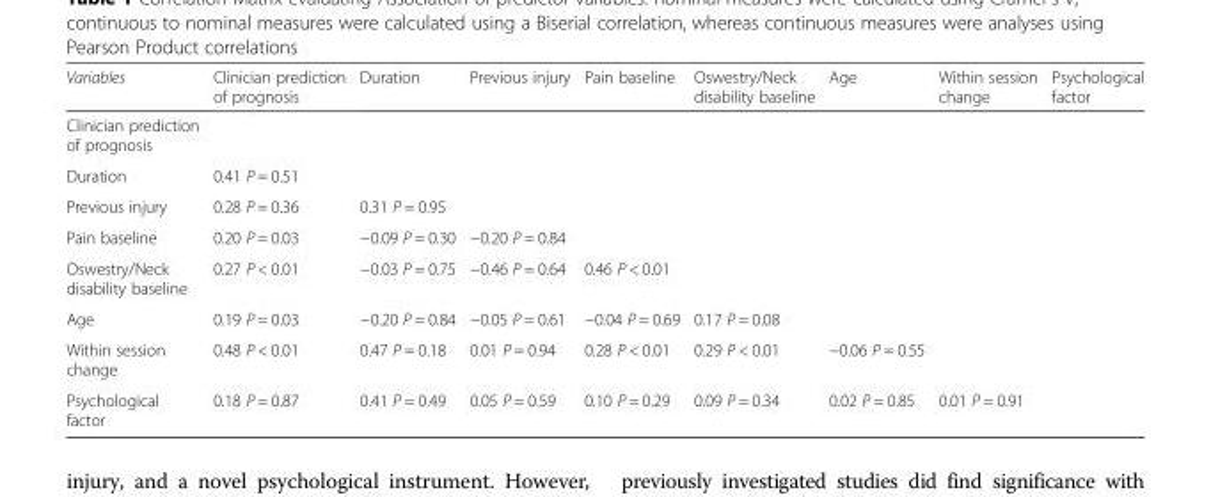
<table><thead><tr><td>Variables</td><td>Clinician prediction of prognosis</td><td>Duration</td><td>Previous injury</td><td>Pain baseline</td><td>Oswestry/Neck disability baseline</td><td>Age</td><td>Within session change</td><td>Psychological factor</td></tr></thead><tbody><tr><td colspan="9">Clinician prediction of prognosis</td></tr><tr><td>Duration</td><td>0.41 P = 0.51</td><td></td><td></td><td></td><td></td><td></td><td></td><td></td></tr><tr><td>Previous injury</td><td>0.28 P = 0.36</td><td>0.31 P = 0.95</td><td></td><td></td><td></td><td></td><td></td><td></td></tr><tr><td>Pain baseline</td><td>0.20 P = 0.03</td><td>−0.09 P = 0.30</td><td>−0.20 P = 0.84</td><td></td><td></td><td></td><td></td><td></td></tr><tr><td>Oswestry/Neck disability baseline</td><td>0.27 P &lt; 0.01</td><td>−0.03 P = 0.75</td><td>−0.46 P = 0.64</td><td>0.46 P &lt; 0.01</td><td></td><td></td><td></td><td></td></tr><tr><td>Age</td><td>0.19 P = 0.03</td><td>−0.20 P = 0.84</td><td>−0.05 P = 0.61</td><td>−0.04 P = 0.69</td><td>0.17 P = 0.08</td><td></td><td></td><td></td></tr><tr><td>Within session change</td><td>0.48 P &lt; 0.01</td><td>0.47 P = 0.18</td><td>0.01 P = 0.94</td><td>0.28 P &lt; 0.01</td><td>0.29 P &lt; 0.01</td><td>−0.06 P = 0.55</td><td></td><td></td></tr><tr><td>Psychological factor</td><td>0.18 P = 0.87</td><td>0.41 P = 0.49</td><td>0.05 P = 0.59</td><td>0.10 P = 0.29</td><td>0.09 P = 0.34</td><td>0.02 P = 0.85</td><td>0.01 P = 0.91</td><td></td></tr></tbody></table>